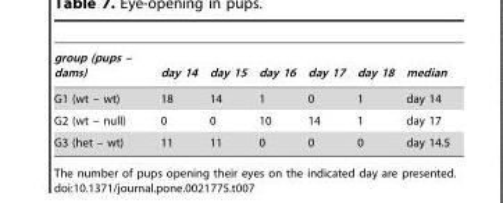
<table><thead><tr><td>group (pups – dams)</td><td>day 14</td><td>day 15</td><td>day 16</td><td>day 17</td><td>day 18</td><td>median</td></tr></thead><tbody><tr><td>G1 (wt – wt)</td><td>18</td><td>14</td><td>1</td><td>0</td><td>1</td><td>day 14</td></tr><tr><td>G2 (wt – null)</td><td>0</td><td>0</td><td>10</td><td>14</td><td>1</td><td>day 17</td></tr><tr><td>G3 (het – wt)</td><td>11</td><td>11</td><td>0</td><td>0</td><td>0</td><td>day 14.5</td></tr></tbody></table>